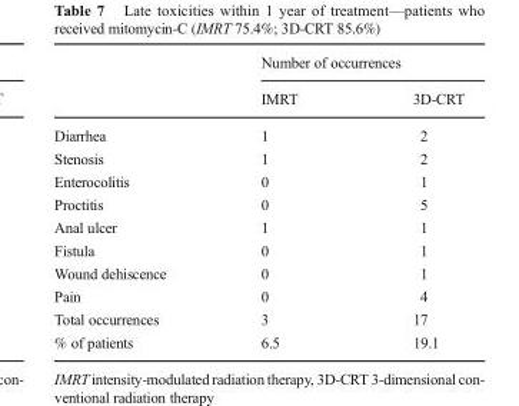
<table><thead><tr><td rowspan="2"></td><td colspan="2">Number of occurrences</td></tr><tr><td>IMRT</td><td>3D-CRT</td></tr></thead><tbody><tr><td>Diarrhea</td><td>1</td><td>2</td></tr><tr><td>Stenosis</td><td>1</td><td>2</td></tr><tr><td>Enterocolitis</td><td>0</td><td>1</td></tr><tr><td>Proctitis</td><td>0</td><td>5</td></tr><tr><td>Anal ulcer</td><td>1</td><td>1</td></tr><tr><td>Fistula</td><td>0</td><td>1</td></tr><tr><td>Wound dehiscence</td><td>0</td><td>1</td></tr><tr><td>Pain</td><td>0</td><td>4</td></tr><tr><td>Total occurrences</td><td>3</td><td>17</td></tr><tr><td>% of patients</td><td>6.5</td><td>19.1</td></tr></tbody></table>